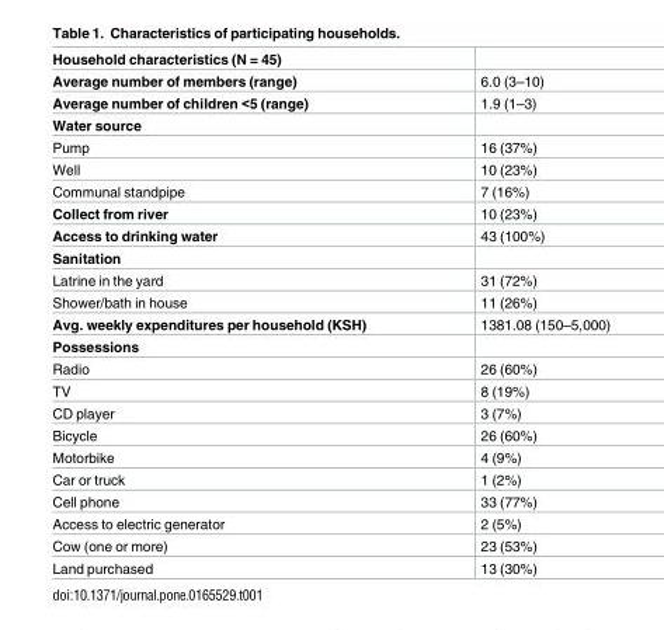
<table><tbody><tr><td colspan="2">Household characteristics (N = 45)</td></tr><tr><td>Average number of members (range)</td><td>6.0 (3–10)</td></tr><tr><td>Average number of children &lt;5 (range)</td><td>1.9 (1–3)</td></tr><tr><td colspan="2">Water source</td></tr><tr><td>Pump</td><td>16 (37%)</td></tr><tr><td>Well</td><td>10 (23%)</td></tr><tr><td>Communal standpipe</td><td>7 (16%)</td></tr><tr><td>Collect from river</td><td>10 (23%)</td></tr><tr><td>Access to drinking water</td><td>43 (100%)</td></tr><tr><td colspan="2">Sanitation</td></tr><tr><td>Latrine in the yard</td><td>31 (72%)</td></tr><tr><td>Shower/bath in house</td><td>11 (26%)</td></tr><tr><td>Avg. weekly expenditures per household (KSH)</td><td>1381.08 (150–5,000)</td></tr><tr><td colspan="2">Possessions</td></tr><tr><td>Radio</td><td>26 (60%)</td></tr><tr><td>TV</td><td>8 (19%)</td></tr><tr><td>CD player</td><td>3 (7%)</td></tr><tr><td>Bicycle</td><td>26 (60%)</td></tr><tr><td>Motorbike</td><td>4 (9%)</td></tr><tr><td>Car or truck</td><td>1 (2%)</td></tr><tr><td>Cell phone</td><td>33 (77%)</td></tr><tr><td>Access to electric generator</td><td>2 (5%)</td></tr><tr><td>Cow (one or more)</td><td>23 (53%)</td></tr><tr><td>Land purchased</td><td>13 (30%)</td></tr></tbody></table>